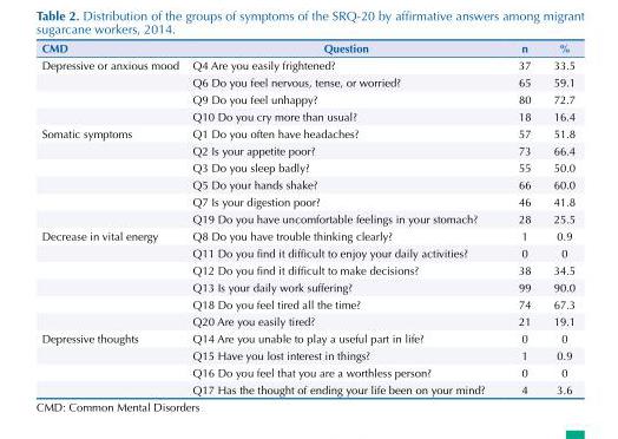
<table><thead><tr><td>CMD</td><td>Question</td><td>n</td><td>%</td></tr></thead><tbody><tr><td rowspan="4">Depressive or anxious mood</td><td>Q4 Are you easily frightened?</td><td>37</td><td>33.5</td></tr><tr><td>Q6 Do you feel nervous, tense, or worried?</td><td>65</td><td>59.1</td></tr><tr><td>Q9 Do you feel unhappy?</td><td>80</td><td>72.7</td></tr><tr><td>Q10 Do you cry more than usual?</td><td>18</td><td>16.4</td></tr><tr><td rowspan="6">Somatic symptoms</td><td>Q1 Do you often have headaches?</td><td>57</td><td>51.8</td></tr><tr><td>Q2 Is your appetite poor?</td><td>73</td><td>66.4</td></tr><tr><td>Q3 Do you sleep badly?</td><td>55</td><td>50.0</td></tr><tr><td>Q5 Do your hands shake?</td><td>66</td><td>60.0</td></tr><tr><td>Q7 Is your digestion poor?</td><td>46</td><td>41.8</td></tr><tr><td>Q19 Do you have uncomfortable feelings in your stomach?</td><td>28</td><td>25.5</td></tr><tr><td rowspan="6">Decrease in vital energy</td><td>Q8 Do you have trouble thinking clearly?</td><td>1</td><td>0.9</td></tr><tr><td>Q11 Do you find it difficult to enjoy your daily activities?</td><td>0</td><td>0</td></tr><tr><td>Q12 Do you find it difficult to make decisions?</td><td>38</td><td>34.5</td></tr><tr><td>Q13 Is your daily work suffering?</td><td>99</td><td>90.0</td></tr><tr><td>Q18 Do you feel tired all the time?</td><td>74</td><td>67.3</td></tr><tr><td>Q20 Are you easily tired?</td><td>21</td><td>19.1</td></tr><tr><td rowspan="4">Depressive thoughts</td><td>Q14 Are you unable to play a useful part in life?</td><td>0</td><td>0</td></tr><tr><td>Q15 Have you lost interest in things?</td><td>1</td><td>0.9</td></tr><tr><td>Q16 Do you feel that you are a worthless person?</td><td>0</td><td>0</td></tr><tr><td>Q17 Has the thought of ending your life been on your mind?</td><td>4</td><td>3.6</td></tr></tbody></table>